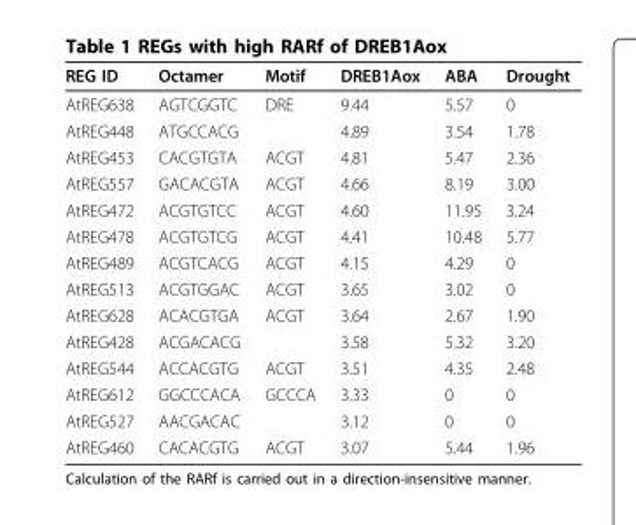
<table><thead><tr><td>REG ID</td><td>Octamer</td><td>Motif</td><td>DREB1Aox</td><td>ABA</td><td>Drought</td></tr></thead><tbody><tr><td>AtREG638</td><td>AGTCGGTC</td><td>DRE</td><td>9.44</td><td>5.57</td><td>0</td></tr><tr><td>AtREG448</td><td>ATGCCACG</td><td></td><td>4.89</td><td>3.54</td><td>1.78</td></tr><tr><td>AtREG453</td><td>CACGTGTA</td><td>ACGT</td><td>4.81</td><td>5.47</td><td>2.36</td></tr><tr><td>AtREG557</td><td>GACACGTA</td><td>ACGT</td><td>4.66</td><td>8.19</td><td>3.00</td></tr><tr><td>AtREG472</td><td>ACGTGTCC</td><td>ACGT</td><td>4.60</td><td>11.95</td><td>3.24</td></tr><tr><td>AtREG478</td><td>ACGTGTCG</td><td>ACGT</td><td>4.41</td><td>10.48</td><td>5.77</td></tr><tr><td>AtREG489</td><td>ACGTCACG</td><td>ACGT</td><td>4.15</td><td>4.29</td><td>0</td></tr><tr><td>AtREG513</td><td>ACGTGGAC</td><td>ACGT</td><td>3.65</td><td>3.02</td><td>0</td></tr><tr><td>AtREG628</td><td>ACACGTGA</td><td>ACGT</td><td>3.64</td><td>2.67</td><td>1.90</td></tr><tr><td>AtREG428</td><td>ACGACACG</td><td></td><td>3.58</td><td>5.32</td><td>3.20</td></tr><tr><td>AtREG544</td><td>ACCACGTG</td><td>ACGT</td><td>3.51</td><td>4.35</td><td>2.48</td></tr><tr><td>AtREG612</td><td>GGCCCACA</td><td>GCCCA</td><td>3.33</td><td>0</td><td>0</td></tr><tr><td>AtREG527</td><td>AACGACAC</td><td></td><td>3.12</td><td>0</td><td>0</td></tr><tr><td>AtREG460</td><td>CACACGTG</td><td>ACGT</td><td>3.07</td><td>5.44</td><td>1.96</td></tr></tbody></table>